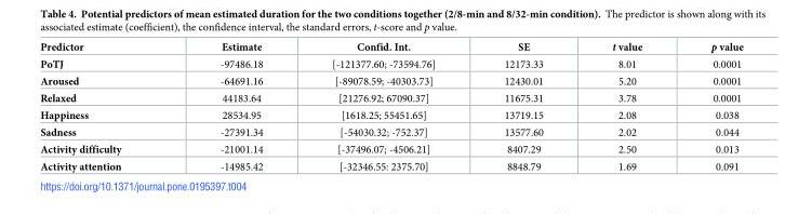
<table><thead><tr><td>Predictor</td><td>Estimate</td><td>Confid. Int.</td><td>SE</td><td>t value</td><td>p value</td></tr></thead><tbody><tr><td>PoTJ</td><td>-97486.18</td><td>[-121377.60; -73594.76]</td><td>12173.33</td><td>8.01</td><td>0.0001</td></tr><tr><td>Aroused</td><td>-64691.16</td><td>[-89078.59; -40303.73]</td><td>12430.01</td><td>5.20</td><td>0.0001</td></tr><tr><td>Relaxed</td><td>44183.64</td><td>[21276.92; 67090.37]</td><td>11675.31</td><td>3.78</td><td>0.0001</td></tr><tr><td>Happiness</td><td>28534.95</td><td>[1618.25; 55451.65]</td><td>13719.15</td><td>2.08</td><td>0.038</td></tr><tr><td>Sadness</td><td>-27391.34</td><td>[-54030.32; -752.37]</td><td>13577.60</td><td>2.02</td><td>0.044</td></tr><tr><td>Activity difficulty</td><td>-21001.14</td><td>[-37496.07; -4506.21]</td><td>8407.29</td><td>2.50</td><td>0.013</td></tr><tr><td>Activity attention</td><td>-14985.42</td><td>[-32346.55: 2375.70]</td><td>8848.79</td><td>1.69</td><td>0.091</td></tr></tbody></table>